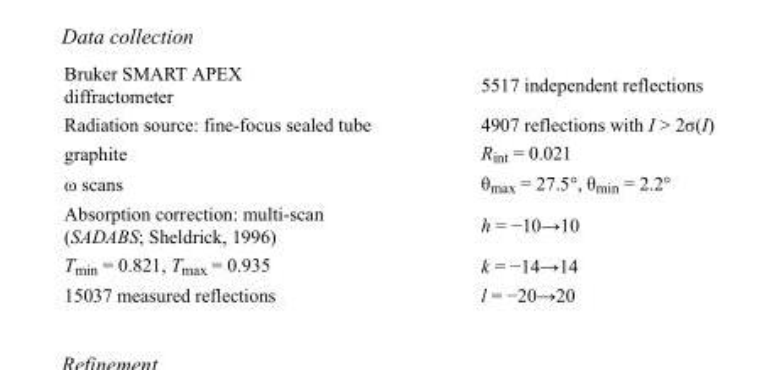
<table><tbody><tr><td>Bruker SMART APEX diffractometer</td><td>5517 independent reflections</td></tr><tr><td>Radiation source: fine-focus sealed tube</td><td>4907 reflections with I &gt; 2σ(I)</td></tr><tr><td>graphite</td><td>R<sub>int</sub> = 0.021</td></tr><tr><td>ω scans</td><td>θ<sub>max</sub> = 27.5°, θ<sub>min</sub> = 2.2°</td></tr><tr><td>Absorption correction: multi-scan (SADABS; Sheldrick, 1996)</td><td>h = −10→10</td></tr><tr><td>T<sub>min</sub> = 0.821, T<sub>max</sub> = 0.935</td><td>k = −14→14</td></tr><tr><td>15037 measured reflections</td><td>l = −20→20</td></tr></tbody></table>